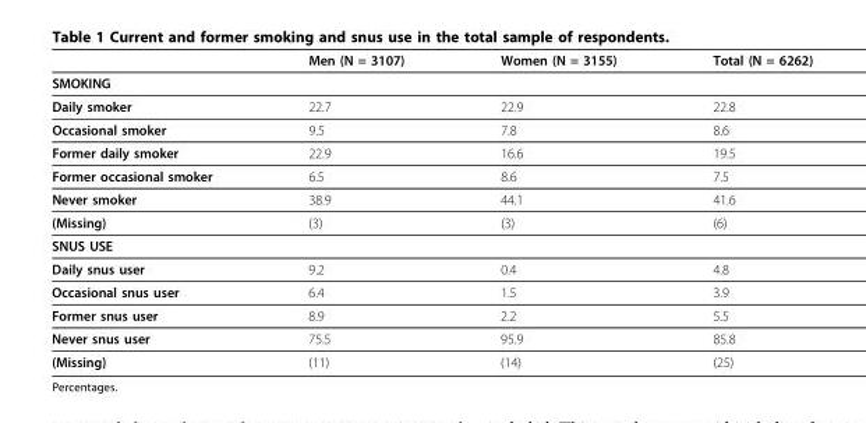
<table><thead><tr><td></td><td>Men (N = 3107)</td><td>Women (N = 3155)</td><td>Total (N = 6262)</td></tr></thead><tbody><tr><td colspan="4">SMOKING</td></tr><tr><td>Daily smoker</td><td>22.7</td><td>22.9</td><td>22.8</td></tr><tr><td>Occasional smoker</td><td>9.5</td><td>7.8</td><td>8.6</td></tr><tr><td>Former daily smoker</td><td>22.9</td><td>16.6</td><td>19.5</td></tr><tr><td>Former occasional smoker</td><td>6.5</td><td>8.6</td><td>7.5</td></tr><tr><td>Never smoker</td><td>38.9</td><td>44.1</td><td>41.6</td></tr><tr><td>(Missing)</td><td>(3)</td><td>(3)</td><td>(6)</td></tr><tr><td colspan="4">SNUS USE</td></tr><tr><td>Daily snus user</td><td>9.2</td><td>0.4</td><td>4.8</td></tr><tr><td>Occasional snus user</td><td>6.4</td><td>1.5</td><td>3.9</td></tr><tr><td>Former snus user</td><td>8.9</td><td>2.2</td><td>5.5</td></tr><tr><td>Never snus user</td><td>75.5</td><td>95.9</td><td>85.8</td></tr><tr><td>(Missing)</td><td>(11)</td><td>(14)</td><td>(25)</td></tr></tbody></table>